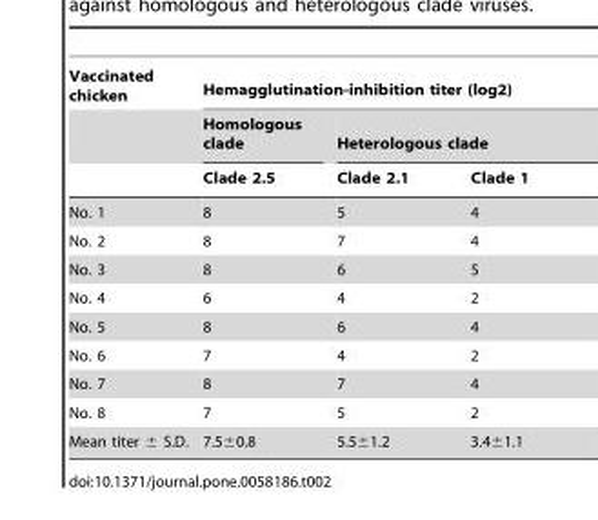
<table><thead><tr><td rowspan="3">Vaccinated chicken</td><td colspan="3">Hemagglutination-inhibition titer (log2)</td></tr><tr><td rowspan="2">Homologous clade Clade 2.5</td><td colspan="2">Heterologous clade</td></tr><tr><td>Clade 2.1</td><td>Clade 1</td></tr></thead><tbody><tr><td>No. 1</td><td>8</td><td>5</td><td>4</td></tr><tr><td>No. 2</td><td>8</td><td>7</td><td>4</td></tr><tr><td>No. 3</td><td>8</td><td>6</td><td>5</td></tr><tr><td>No. 4</td><td>6</td><td>4</td><td>2</td></tr><tr><td>No. 5</td><td>8</td><td>6</td><td>4</td></tr><tr><td>No. 6</td><td>7</td><td>4</td><td>2</td></tr><tr><td>No. 7</td><td>8</td><td>7</td><td>4</td></tr><tr><td>No. 8</td><td>7</td><td>5</td><td>2</td></tr><tr><td>Mean titer ± S.D.</td><td>7.5±0.8</td><td>5.5±1.2</td><td>3.4±1.1</td></tr></tbody></table>